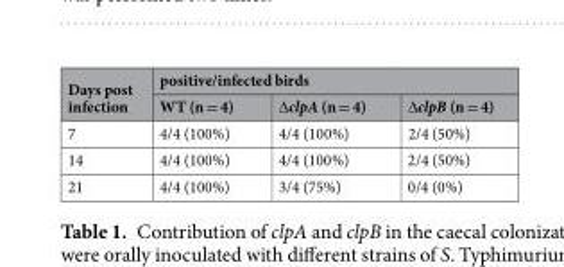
<table><thead><tr><td rowspan="2">Days post infection</td><td colspan="3">positive/infected birds</td></tr><tr><td>WT (n = 4)</td><td>∆clpA (n = 4)</td><td>∆clpB (n = 4)</td></tr></thead><tbody><tr><td>7</td><td>4/4 (100%)</td><td>4/4 (100%)</td><td>2/4 (50%)</td></tr><tr><td>14</td><td>4/4 (100%)</td><td>4/4 (100%)</td><td>2/4 (50%)</td></tr><tr><td>21</td><td>4/4 (100%)</td><td>3/4 (75%)</td><td>0/4 (0%)</td></tr></tbody></table>